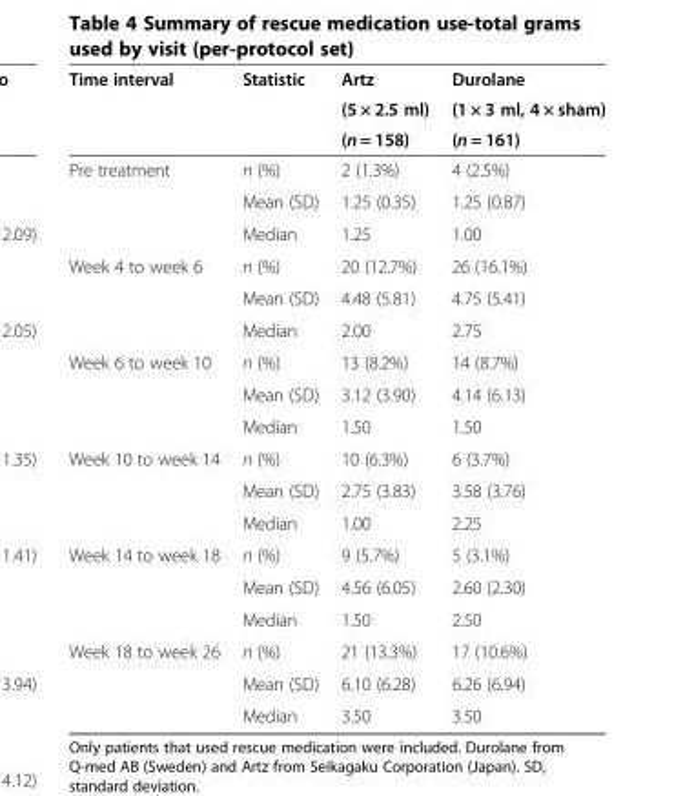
<table><thead><tr><td rowspan="3">Time interval</td><td rowspan="3">Statistic</td><td rowspan="3">Artz (5 × 2.5 ml) (n = 158)</td><td rowspan="3">Durolane (1 × 3 ml, 4 × sham) (n = 161)</td></tr><tr></tr><tr></tr></thead><tbody><tr><td rowspan="3">Pre treatment</td><td>n (%)</td><td>2 (1.3%)</td><td>4 (2.5%)</td></tr><tr><td>Mean (SD)</td><td>1.25 (0.35)</td><td>1.25 (0.87)</td></tr><tr><td>Median</td><td>1.25</td><td>1.00</td></tr><tr><td rowspan="3">Week 4 to week 6</td><td>n (%)</td><td>20 (12.7%)</td><td>26 (16.1%)</td></tr><tr><td>Mean (SD)</td><td>4.48 (5.81)</td><td>4.75 (5.41)</td></tr><tr><td>Median</td><td>2.00</td><td>2.75</td></tr><tr><td rowspan="3">Week 6 to week 10</td><td>n (%)</td><td>13 (8.2%)</td><td>14 (8.7%)</td></tr><tr><td>Mean (SD)</td><td>3.12 (3.90)</td><td>4.14 (6.13)</td></tr><tr><td>Median</td><td>1.50</td><td>1.50</td></tr><tr><td rowspan="3">Week 10 to week 14</td><td>n (%)</td><td>10 (6.3%)</td><td>6 (3.7%)</td></tr><tr><td>Mean (SD)</td><td>2.75 (3.83)</td><td>3.58 (3.76)</td></tr><tr><td>Median</td><td>1.00</td><td>2.25</td></tr><tr><td rowspan="3">Week 14 to week 18</td><td>n (%)</td><td>9 (5.7%)</td><td>5 (3.1%)</td></tr><tr><td>Mean (SD)</td><td>4.56 (6.05)</td><td>2.60 (2.30)</td></tr><tr><td>Median</td><td>1.50</td><td>2.50</td></tr><tr><td rowspan="3">Week 18 to week 26</td><td>n (%)</td><td>21 (13.3%)</td><td>17 (10.6%)</td></tr><tr><td>Mean (SD)</td><td>6.10 (6.28)</td><td>6.26 (6.94)</td></tr><tr><td>Median</td><td>3.50</td><td>3.50</td></tr></tbody></table>